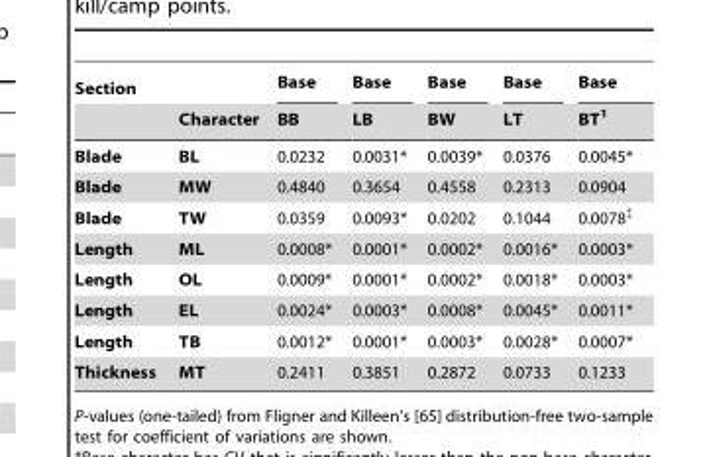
<table><thead><tr><td rowspan="2">Section</td><td rowspan="2">Character</td><td rowspan="2">Base BB</td><td rowspan="2">Base LB</td><td rowspan="2">Base BW</td><td rowspan="2">Base LT</td><td rowspan="2">Base BT<sup>1</sup></td></tr><tr></tr></thead><tbody><tr><td>Blade</td><td>BL</td><td>0.0232</td><td>0.0031*</td><td>0.0039*</td><td>0.0376</td><td>0.0045*</td></tr><tr><td>Blade</td><td>MW</td><td>0.4840</td><td>0.3654</td><td>0.4558</td><td>0.2313</td><td>0.0904</td></tr><tr><td>Blade</td><td>TW</td><td>0.0359</td><td>0.0093*</td><td>0.0202</td><td>0.1044</td><td>0.0078‡</td></tr><tr><td>Length</td><td>ML</td><td>0.0008*</td><td>0.0001*</td><td>0.0002*</td><td>0.0016*</td><td>0.0003*</td></tr><tr><td>Length</td><td>OL</td><td>0.0009*</td><td>0.0001*</td><td>0.0002*</td><td>0.0018*</td><td>0.0003*</td></tr><tr><td>Length</td><td>EL</td><td>0.0024*</td><td>0.0003*</td><td>0.0008*</td><td>0.0045*</td><td>0.0011*</td></tr><tr><td>Length</td><td>TB</td><td>0.0012*</td><td>0.0001*</td><td>0.0003*</td><td>0.0028*</td><td>0.0007*</td></tr><tr><td>Thickness</td><td>MT</td><td>0.2411</td><td>0.3851</td><td>0.2872</td><td>0.0733</td><td>0.1233</td></tr></tbody></table>